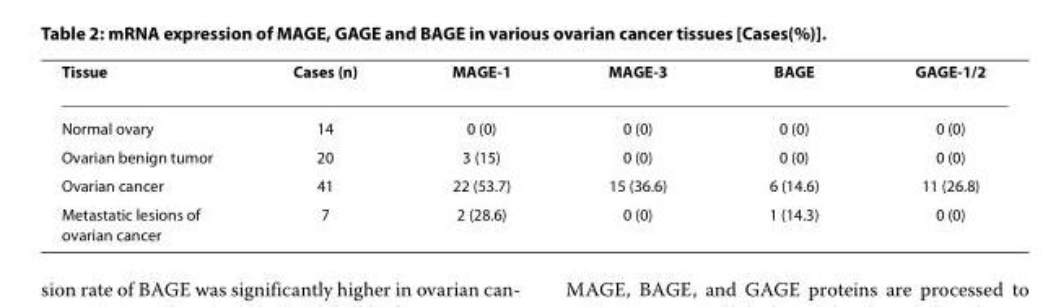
<table><thead><tr><td>Tissue</td><td>Cases (n)</td><td>MAGE-1</td><td>MAGE-3</td><td>BAGE</td><td>GAGE-1/2</td></tr></thead><tbody><tr><td>Normal ovary</td><td>14</td><td>0 (0)</td><td>0 (0)</td><td>0 (0)</td><td>0 (0)</td></tr><tr><td>Ovarian benign tumor</td><td>20</td><td>3 (15)</td><td>0 (0)</td><td>0 (0)</td><td>0 (0)</td></tr><tr><td>Ovarian cancer</td><td>41</td><td>22 (53.7)</td><td>15 (36.6)</td><td>6 (14.6)</td><td>11 (26.8)</td></tr><tr><td>Metastatic lesions of ovarian cancer</td><td>7</td><td>2 (28.6)</td><td>0 (0)</td><td>1 (14.3)</td><td>0 (0)</td></tr></tbody></table>